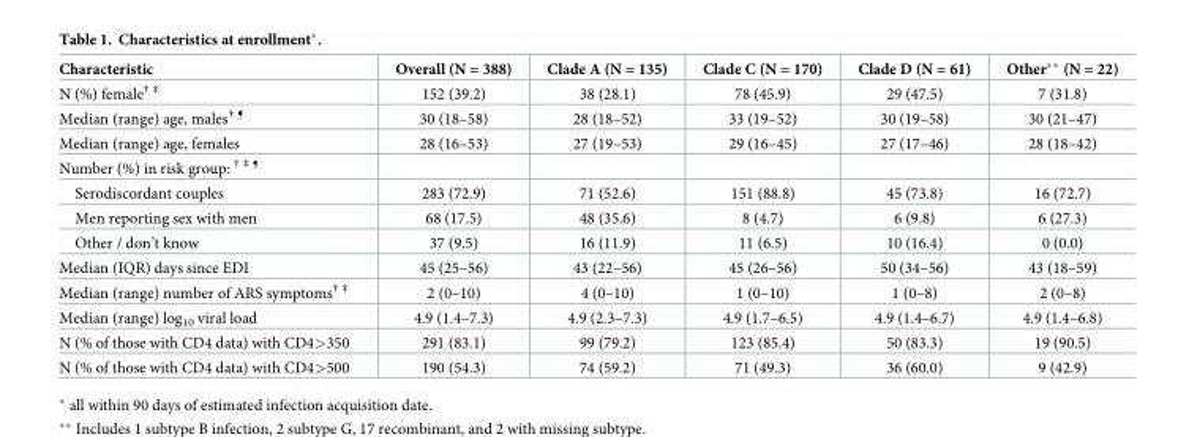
<table><thead><tr><td>Characteristic</td><td>Overall (N = 388)</td><td>Clade A (N = 135)</td><td>Clade C (N = 170)</td><td>Clade D (N = 61)</td><td>Other** (N = 22)</td></tr></thead><tbody><tr><td>N (%) female<sup>† ‡</sup></td><td>152 (39.2)</td><td>38 (28.1)</td><td>78 (45.9)</td><td>29 (47.5)</td><td>7 (31.8)</td></tr><tr><td>Median (range) age, males<sup>† ¶</sup></td><td>30 (18–58)</td><td>28 (18–52)</td><td>33 (19–52)</td><td>30 (19–58)</td><td>30 (21–47)</td></tr><tr><td>Median (range) age, females</td><td>28 (16–53)</td><td>27 (19–53)</td><td>29 (16–45)</td><td>27 (17–46)</td><td>28 (18–42)</td></tr><tr><td colspan="6">Number (%) in risk group: <sup>† ‡ ¶</sup></td></tr><tr><td>Serodiscordant couples</td><td>283 (72.9)</td><td>71 (52.6)</td><td>151 (88.8)</td><td>45 (73.8)</td><td>16 (72.7)</td></tr><tr><td>Men reporting sex with men</td><td>68 (17.5)</td><td>48 (35.6)</td><td>8 (4.7)</td><td>6 (9.8)</td><td>6 (27.3)</td></tr><tr><td>Other / don’t know</td><td>37 (9.5)</td><td>16 (11.9)</td><td>11 (6.5)</td><td>10 (16.4)</td><td>0 (0.0)</td></tr><tr><td>Median (IQR) days since EDI</td><td>45 (25–56)</td><td>43 (22–56)</td><td>45 (26–56)</td><td>50 (34–56)</td><td>43 (18–59)</td></tr><tr><td>Median (range) number of ARS symptoms<sup>† ‡</sup></td><td>2 (0–10)</td><td>4 (0–10)</td><td>1 (0–10)</td><td>1 (0–8)</td><td>2 (0–8)</td></tr><tr><td>Median (range) log<sub>10</sub> viral load</td><td>4.9 (1.4–7.3)</td><td>4.9 (2.3–7.3)</td><td>4.9 (1.7–6.5)</td><td>4.9 (1.4–6.7)</td><td>4.9 (1.4–6.8)</td></tr><tr><td>N (% of those with CD4 data) with CD4&gt;350</td><td>291 (83.1)</td><td>99 (79.2)</td><td>123 (85.4)</td><td>50 (83.3)</td><td>19 (90.5)</td></tr><tr><td>N (% of those with CD4 data) with CD4&gt;500</td><td>190 (54.3)</td><td>74 (59.2)</td><td>71 (49.3)</td><td>36 (60.0)</td><td>9 (42.9)</td></tr></tbody></table>